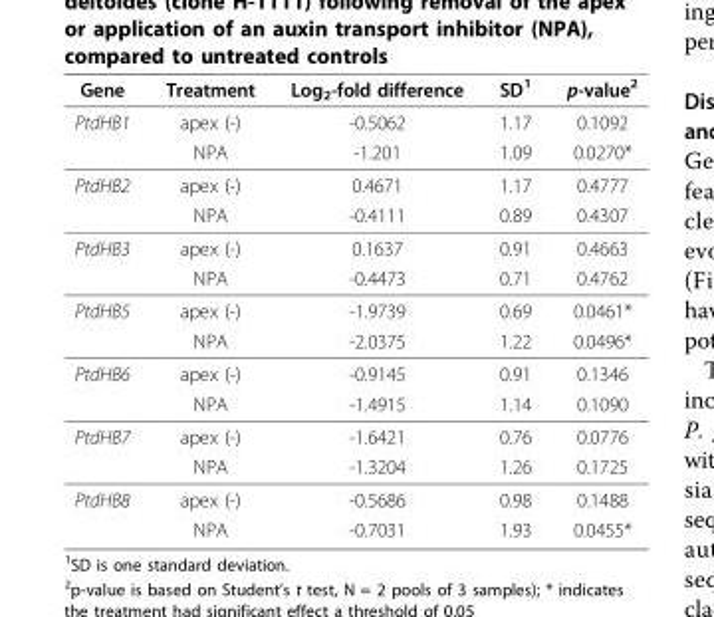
<table><thead><tr><td>Gene</td><td>Treatment</td><td>Log<sub>2</sub>-fold difference</td><td>SD<sup>1</sup></td><td>p-value<sup>2</sup></td></tr></thead><tbody><tr><td rowspan="2">PtdHB1</td><td>apex (-)</td><td>-0.5062</td><td>1.17</td><td>0.1092</td></tr><tr><td>NPA</td><td>-1.201</td><td>1.09</td><td>0.0270*</td></tr><tr><td rowspan="2">PtdHB2</td><td>apex (-)</td><td>0.4671</td><td>1.17</td><td>0.4777</td></tr><tr><td>NPA</td><td>-0.4111</td><td>0.89</td><td>0.4307</td></tr><tr><td rowspan="2">PtdHB3</td><td>apex (-)</td><td>0.1637</td><td>0.91</td><td>0.4663</td></tr><tr><td>NPA</td><td>-0.4473</td><td>0.71</td><td>0.4762</td></tr><tr><td rowspan="2">PtdHB5</td><td>apex (-)</td><td>-1.9739</td><td>0.69</td><td>0.0461*</td></tr><tr><td>NPA</td><td>-2.0375</td><td>1.22</td><td>0.0496*</td></tr><tr><td rowspan="2">PtdHB6</td><td>apex (-)</td><td>-0.9145</td><td>0.91</td><td>0.1346</td></tr><tr><td>NPA</td><td>-1.4915</td><td>1.14</td><td>0.1090</td></tr><tr><td rowspan="2">PtdHB7</td><td>apex (-)</td><td>-1.6421</td><td>0.76</td><td>0.0776</td></tr><tr><td>NPA</td><td>-1.3204</td><td>1.26</td><td>0.1725</td></tr><tr><td rowspan="2">PtdHB8</td><td>apex (-)</td><td>-0.5686</td><td>0.98</td><td>0.1488</td></tr><tr><td>NPA</td><td>-0.7031</td><td>1.93</td><td>0.0455*</td></tr></tbody></table>